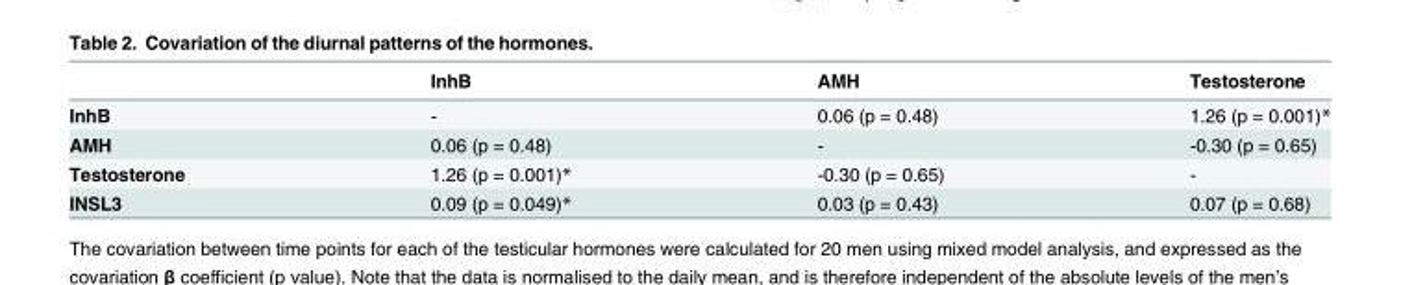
<table><thead><tr><td></td><td>InhB</td><td>AMH</td><td>Testosterone</td></tr></thead><tbody><tr><td>InhB</td><td>-</td><td>0.06 (p = 0.48)</td><td>1.26 (p = 0.001)*</td></tr><tr><td>AMH</td><td>0.06 (p = 0.48)</td><td>-</td><td>-0.30 (p = 0.65)</td></tr><tr><td>Testosterone</td><td>1.26 (p = 0.001)*</td><td>-0.30 (p = 0.65)</td><td>-</td></tr><tr><td>INSL3</td><td>0.09 (p = 0.049)*</td><td>0.03 (p = 0.43)</td><td>0.07 (p = 0.68)</td></tr></tbody></table>